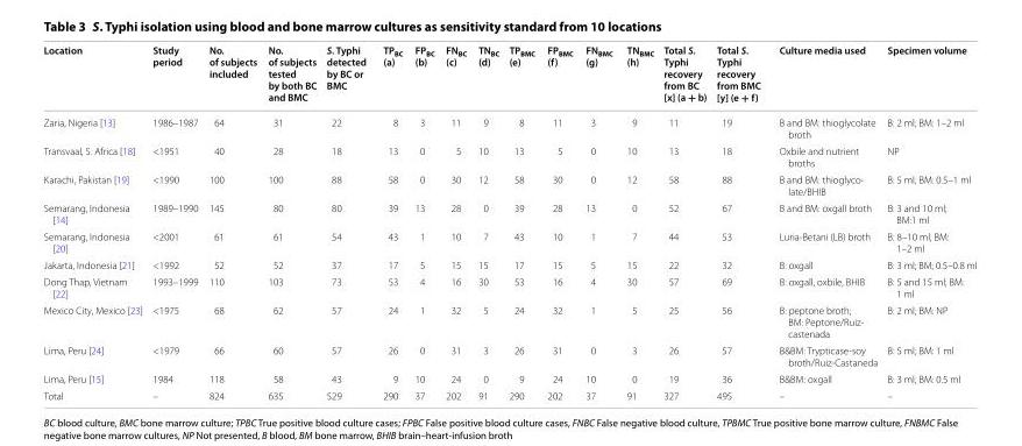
<table><thead><tr><td>Location</td><td>Study period</td><td>No. of subjects included</td><td>No. of subjects tested by both BC and BMC</td><td>S. Typhi detected by BC or BMC</td><td>TP<sub>BC</sub> (a)</td><td>FP<sub>BC</sub> (b)</td><td>FN<sub>BC</sub> (c)</td><td>TN<sub>BC</sub> (d)</td><td>TP<sub>BMC</sub> (e)</td><td>FP<sub>BMC</sub> (f)</td><td>FN<sub>BMC</sub> (g)</td><td>TN<sub>BMC</sub> (h)</td><td>Total S. Typhi recovery from BC [x] (a + b)</td><td>Total S. Typhi recovery from BMC [y] (e + f)</td><td>Culture media used</td><td>Specimen volume</td></tr></thead><tbody><tr><td>Zaria, Nigeria [13]</td><td>1986–1987</td><td>64</td><td>31</td><td>22</td><td>8</td><td>3</td><td>11</td><td>9</td><td>8</td><td>11</td><td>3</td><td>9</td><td>11</td><td>19</td><td>B and BM: thioglycolate broth</td><td>B: 2 ml; BM: 1–2 ml</td></tr><tr><td>Transvaal, S. Africa [18]</td><td>&lt;1951</td><td>40</td><td>28</td><td>18</td><td>13</td><td>0</td><td>5</td><td>10</td><td>13</td><td>5</td><td>0</td><td>10</td><td>13</td><td>18</td><td>Oxbile and nutrient broths</td><td>NP</td></tr><tr><td>Karachi, Pakistan [19]</td><td>&lt;1990</td><td>100</td><td>100</td><td>88</td><td>58</td><td>0</td><td>30</td><td>12</td><td>58</td><td>30</td><td>0</td><td>12</td><td>58</td><td>88</td><td>B and BM: thioglyco- late/BHIB</td><td>B: 5 ml; BM: 0.5–1 ml</td></tr><tr><td>Semarang, Indonesia [14]</td><td>1989–1990</td><td>145</td><td>80</td><td>80</td><td>39</td><td>13</td><td>28</td><td>0</td><td>39</td><td>28</td><td>13</td><td>0</td><td>52</td><td>67</td><td>B and BM: oxgall broth</td><td>B: 3 and 10 ml; BM:1 ml</td></tr><tr><td>Semarang, Indonesia [20]</td><td>&lt;2001</td><td>61</td><td>61</td><td>54</td><td>43</td><td>1</td><td>10</td><td>7</td><td>43</td><td>10</td><td>1</td><td>7</td><td>44</td><td>53</td><td>Luria-Betani (LB) broth</td><td>B: 8–10 ml; BM: 1–2 ml</td></tr><tr><td>Jakarta, Indonesia [21]</td><td>&lt;1992</td><td>52</td><td>52</td><td>37</td><td>17</td><td>5</td><td>15</td><td>15</td><td>17</td><td>15</td><td>5</td><td>15</td><td>22</td><td>32</td><td>B: oxgall</td><td>B: 3 ml; BM; 0.5–0.8 ml</td></tr><tr><td>Dong Thap, Vietnam [22]</td><td>1993–1999</td><td>110</td><td>103</td><td>73</td><td>53</td><td>4</td><td>16</td><td>30</td><td>53</td><td>16</td><td>4</td><td>30</td><td>57</td><td>69</td><td>B: oxgall, oxbile, BHIB</td><td>B: 5 and 15 ml; BM: 1 ml</td></tr><tr><td>Mexico City, Mexico [23]</td><td>&lt;1975</td><td>68</td><td>62</td><td>57</td><td>24</td><td>1</td><td>32</td><td>5</td><td>24</td><td>32</td><td>1</td><td>5</td><td>25</td><td>56</td><td>B: peptone broth; BM: Peptone/Ruiz- castenada</td><td>B: 2 ml; BM: NP</td></tr><tr><td>Lima, Peru [24]</td><td>&lt;1979</td><td>66</td><td>60</td><td>57</td><td>26</td><td>0</td><td>31</td><td>3</td><td>26</td><td>31</td><td>0</td><td>3</td><td>26</td><td>57</td><td>B&amp;BM: Trypticase-soy broth/Ruiz-Castaneda</td><td>B: 5 ml; BM: 1 ml</td></tr><tr><td>Lima, Peru [15]</td><td>1984</td><td>118</td><td>58</td><td>43</td><td>9</td><td>10</td><td>24</td><td>0</td><td>9</td><td>24</td><td>10</td><td>0</td><td>19</td><td>36</td><td>B&amp;BM: oxgall</td><td>B: 3 ml; BM: 0.5 ml</td></tr><tr><td>Total</td><td>–</td><td>824</td><td>635</td><td>529</td><td>290</td><td>37</td><td>202</td><td>91</td><td>290</td><td>202</td><td>37</td><td>91</td><td>327</td><td>495</td><td>–</td><td>–</td></tr></tbody></table>